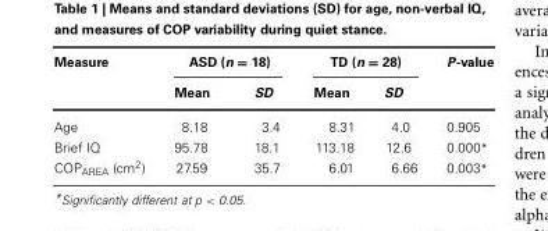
<table><thead><tr><td rowspan="2">Measure</td><td colspan="2">ASD (n = 18)</td><td colspan="2">TD (n = 28)</td><td rowspan="2">P-value</td></tr><tr><td>Mean</td><td>SD</td><td>Mean</td><td>SD</td></tr></thead><tbody><tr><td>Age</td><td>8.18</td><td>3.4</td><td>8.31</td><td>4.0</td><td>0.905</td></tr><tr><td>Brief IQ</td><td>95.78</td><td>18.1</td><td>113.18</td><td>12.6</td><td>0.000*</td></tr><tr><td>COP<sub>AREA</sub> (cm<sup>2</sup>)</td><td>27.59</td><td>35.7</td><td>6.01</td><td>6.66</td><td>0.003*</td></tr></tbody></table>